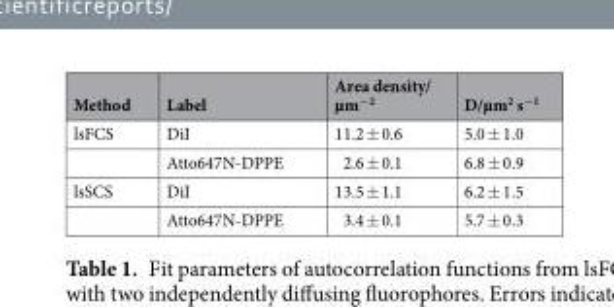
<table><thead><tr><td>Method</td><td>Label</td><td>Area density/ µm<sup>−2</sup></td><td>D/µm<sup>2</sup> s<sup>−1</sup></td></tr></thead><tbody><tr><td rowspan="2">lsFCS</td><td>DiI</td><td>11.2 ± 0.6</td><td>5.0 ± 1.0</td></tr><tr><td>Atto647N-DPPE</td><td>2.6 ± 0.1</td><td>6.8 ± 0.9</td></tr><tr><td rowspan="2">lsSCS</td><td>DiI</td><td>13.5 ± 1.1</td><td>6.2 ± 1.5</td></tr><tr><td>Atto647N-DPPE</td><td>3.4 ± 0.1</td><td>5.7 ± 0.3</td></tr></tbody></table>